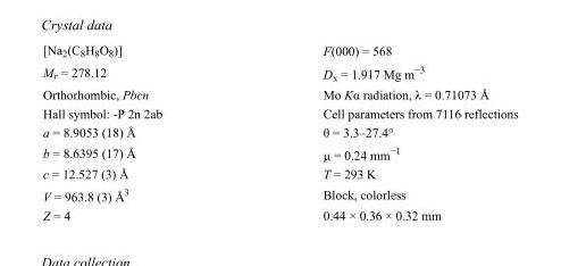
<table><tbody><tr><td>[Na<sub>2</sub>(C<sub>8</sub>H<sub>8</sub>O<sub>8</sub>)]</td><td>F(000) = 568</td></tr><tr><td>M<sub>r</sub> = 278.12</td><td>D<sub>x</sub> = 1.917 Mg m<sup>−3</sup></td></tr><tr><td>Orthorhombic, Pbcn</td><td>Mo Kα radiation, λ = 0.71073 Å</td></tr><tr><td>Hall symbol: -P 2n 2ab</td><td>Cell parameters from 7116 reflections</td></tr><tr><td>a = 8.9053 (18) Å</td><td>θ = 3.3–27.4°</td></tr><tr><td>b = 8.6395 (17) Å</td><td>µ = 0.24 mm<sup>−1</sup></td></tr><tr><td>c = 12.527 (3) Å</td><td>T = 293 K</td></tr><tr><td>V = 963.8 (3) Å<sup>3</sup></td><td>Block, colorless</td></tr><tr><td>Z = 4</td><td>0.44 × 0.36 × 0.32 mm</td></tr></tbody></table>